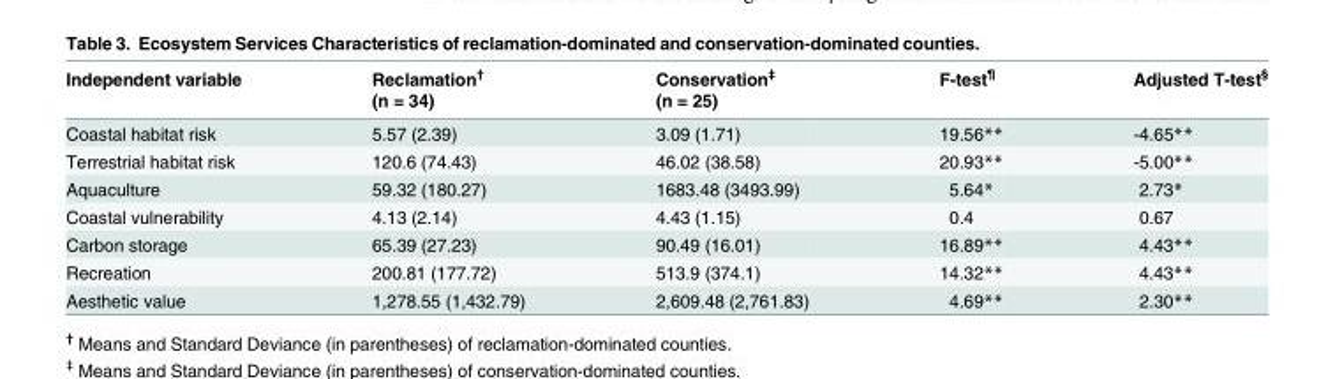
<table><thead><tr><td rowspan="2">Independent variable</td><td rowspan="2">Reclamation<sup>†</sup> (n = 34)</td><td rowspan="2">Conservation<sup>‡</sup> (n = 25)</td><td rowspan="2">F-test<sup>¶</sup></td><td rowspan="2">Adjusted T-test<sup>§</sup></td></tr><tr></tr></thead><tbody><tr><td>Coastal habitat risk</td><td>5.57 (2.39)</td><td>3.09 (1.71)</td><td>19.56**</td><td>-4.65**</td></tr><tr><td>Terrestrial habitat risk</td><td>120.6 (74.43)</td><td>46.02 (38.58)</td><td>20.93**</td><td>-5.00**</td></tr><tr><td>Aquaculture</td><td>59.32 (180.27)</td><td>1683.48 (3493.99)</td><td>5.64*</td><td>2.73*</td></tr><tr><td>Coastal vulnerability</td><td>4.13 (2.14)</td><td>4.43 (1.15)</td><td>0.4</td><td>0.67</td></tr><tr><td>Carbon storage</td><td>65.39 (27.23)</td><td>90.49 (16.01)</td><td>16.89**</td><td>4.43**</td></tr><tr><td>Recreation</td><td>200.81 (177.72)</td><td>513.9 (374.1)</td><td>14.32**</td><td>4.43**</td></tr><tr><td>Aesthetic value</td><td>1,278.55 (1,432.79)</td><td>2,609.48 (2,761.83)</td><td>4.69**</td><td>2.30**</td></tr></tbody></table>